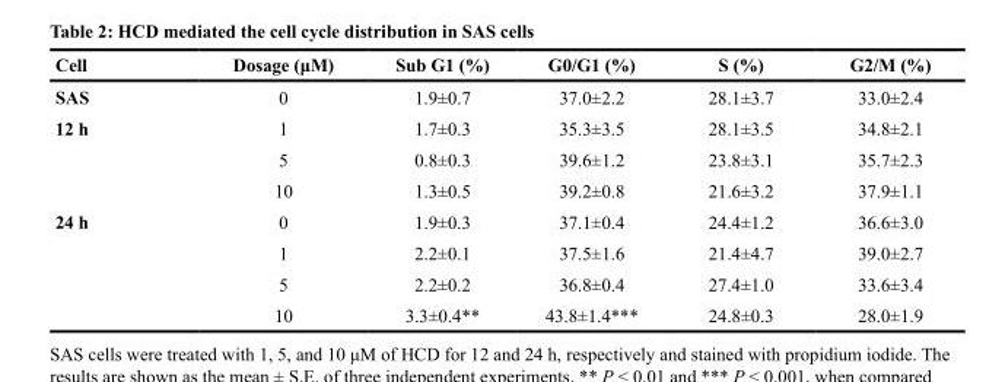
<table><thead><tr><td>Cell</td><td>Dosage (μM)</td><td>Sub G1 (%)</td><td>G0/G1 (%)</td><td>S (%)</td><td>G2/M (%)</td></tr></thead><tbody><tr><td>SAS</td><td>0</td><td>1.9±0.7</td><td>37.0±2.2</td><td>28.1±3.7</td><td>33.0±2.4</td></tr><tr><td rowspan="3">12 h</td><td>1</td><td>1.7±0.3</td><td>35.3±3.5</td><td>28.1±3.5</td><td>34.8±2.1</td></tr><tr><td>5</td><td>0.8±0.3</td><td>39.6±1.2</td><td>23.8±3.1</td><td>35.7±2.3</td></tr><tr><td>10</td><td>1.3±0.5</td><td>39.2±0.8</td><td>21.6±3.2</td><td>37.9±1.1</td></tr><tr><td rowspan="4">24 h</td><td>0</td><td>1.9±0.3</td><td>37.1±0.4</td><td>24.4±1.2</td><td>36.6±3.0</td></tr><tr><td>1</td><td>2.2±0.1</td><td>37.5±1.6</td><td>21.4±4.7</td><td>39.0±2.7</td></tr><tr><td>5</td><td>2.2±0.2</td><td>36.8±0.4</td><td>27.4±1.0</td><td>33.6±3.4</td></tr><tr><td>10</td><td>3.3±0.4**</td><td>43.8±1.4***</td><td>24.8±0.3</td><td>28.0±1.9</td></tr></tbody></table>